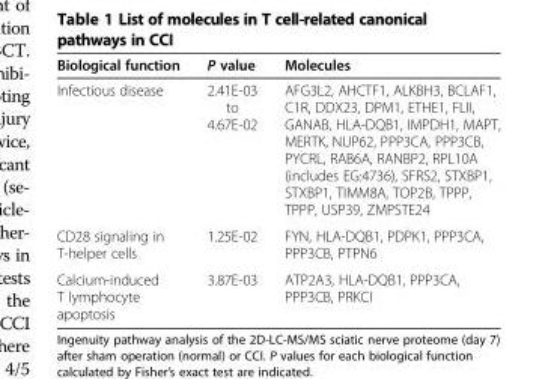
<table><thead><tr><td>Biological function</td><td>P value</td><td>Molecules</td></tr></thead><tbody><tr><td>Infectious disease</td><td>2.41E-03 to 4.67E-02</td><td>AFG3L2, AHCTF1, ALKBH3, BCLAF1, C1R, DDX23, DPM1, ETHE1, FLII, GANAB, HLA-DQB1, IMPDH1, MAPT, MERTK, NUP62, PPP3CA, PPP3CB, PYCRL, RAB6A, RANBP2, RPL10A (includes EG:4736), SFRS2, STXBP1, STXBP1, TIMM8A, TOP2B, TPPP, TPPP, USP39, ZMPSTE24</td></tr><tr><td>CD28 signaling in T-helper cells</td><td>1.25E-02</td><td>FYN, HLA-DQB1, PDPK1, PPP3CA, PPP3CB, PTPN6</td></tr><tr><td>Calcium-induced T lymphocyte apoptosis</td><td>3.87E-03</td><td>ATP2A3, HLA-DQB1, PPP3CA, PPP3CB, PRKCI</td></tr></tbody></table>